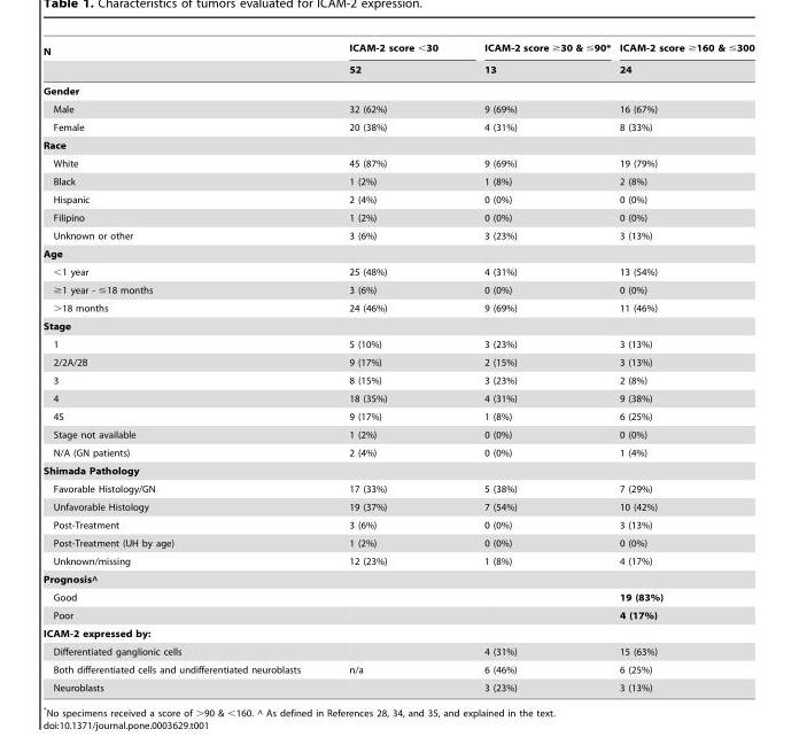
<table><thead><tr><td rowspan="2">N</td><td rowspan="2">ICAM-2 score &lt;30 52</td><td rowspan="2">ICAM-2 score ≥30 &amp; ≤90* 13</td><td rowspan="2">ICAM-2 score ≥160 &amp; ≤300 24</td></tr><tr></tr></thead><tbody><tr><td colspan="4">Gender</td></tr><tr><td>Male</td><td>32 (62%)</td><td>9 (69%)</td><td>16 (67%)</td></tr><tr><td>Female</td><td>20 (38%)</td><td>4 (31%)</td><td>8 (33%)</td></tr><tr><td colspan="4">Race</td></tr><tr><td>White</td><td>45 (87%)</td><td>9 (69%)</td><td>19 (79%)</td></tr><tr><td>Black</td><td>1 (2%)</td><td>1 (8%)</td><td>2 (8%)</td></tr><tr><td>Hispanic</td><td>2 (4%)</td><td>0 (0%)</td><td>0 (0%)</td></tr><tr><td>Filipino</td><td>1 (2%)</td><td>0 (0%)</td><td>0 (0%)</td></tr><tr><td>Unknown or other</td><td>3 (6%)</td><td>3 (23%)</td><td>3 (13%)</td></tr><tr><td colspan="4">Age</td></tr><tr><td>&lt;1 year</td><td>25 (48%)</td><td>4 (31%)</td><td>13 (54%)</td></tr><tr><td>≥1 year - ≤18 months</td><td>3 (6%)</td><td>0 (0%)</td><td>0 (0%)</td></tr><tr><td>&gt;18 months</td><td>24 (46%)</td><td>9 (69%)</td><td>11 (46%)</td></tr><tr><td colspan="4">Stage</td></tr><tr><td>1</td><td>5 (10%)</td><td>3 (23%)</td><td>3 (13%)</td></tr><tr><td>2/2A/2B</td><td>9 (17%)</td><td>2 (15%)</td><td>3 (13%)</td></tr><tr><td>3</td><td>8 (15%)</td><td>3 (23%)</td><td>2 (8%)</td></tr><tr><td>4</td><td>18 (35%)</td><td>4 (31%)</td><td>9 (38%)</td></tr><tr><td>4S</td><td>9 (17%)</td><td>1 (8%)</td><td>6 (25%)</td></tr><tr><td>Stage not available</td><td>1 (2%)</td><td>0 (0%)</td><td>0 (0%)</td></tr><tr><td>N/A (GN patients)</td><td>2 (4%)</td><td>0 (0%)</td><td>1 (4%)</td></tr><tr><td colspan="4">Shimada Pathology</td></tr><tr><td>Favorable Histology/GN</td><td>17 (33%)</td><td>5 (38%)</td><td>7 (29%)</td></tr><tr><td>Unfavorable Histology</td><td>19 (37%)</td><td>7 (54%)</td><td>10 (42%)</td></tr><tr><td>Post-Treatment</td><td>3 (6%)</td><td>0 (0%)</td><td>3 (13%)</td></tr><tr><td>Post-Treatment (UH by age)</td><td>1 (2%)</td><td>0 (0%)</td><td>0 (0%)</td></tr><tr><td>Unknown/missing</td><td>12 (23%)</td><td>1 (8%)</td><td>4 (17%)</td></tr><tr><td colspan="4">Prognosis^</td></tr><tr><td>Good</td><td></td><td></td><td>19 (83%)</td></tr><tr><td>Poor</td><td></td><td></td><td>4 (17%)</td></tr><tr><td colspan="4">ICAM-2 expressed by:</td></tr><tr><td>Differentiated ganglionic cells</td><td></td><td>4 (31%)</td><td>15 (63%)</td></tr><tr><td>Both differentiated cells and undifferentiated neuroblasts</td><td>n/a</td><td>6 (46%)</td><td>6 (25%)</td></tr><tr><td>Neuroblasts</td><td></td><td>3 (23%)</td><td>3 (13%)</td></tr></tbody></table>